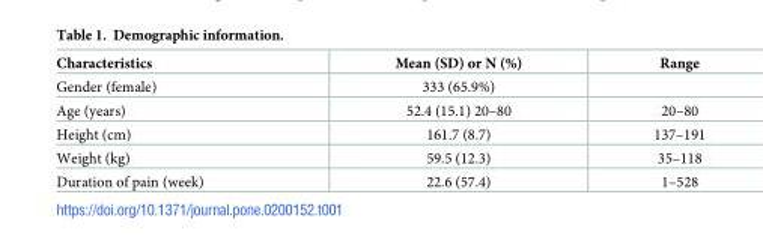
<table><thead><tr><td>Characteristics</td><td>Mean (SD) or N (%)</td><td>Range</td></tr></thead><tbody><tr><td>Gender (female)</td><td>333 (65.9%)</td><td></td></tr><tr><td>Age (years)</td><td>52.4 (15.1) 20–80</td><td>20–80</td></tr><tr><td>Height (cm)</td><td>161.7 (8.7)</td><td>137–191</td></tr><tr><td>Weight (kg)</td><td>59.5 (12.3)</td><td>35–118</td></tr><tr><td>Duration of pain (week)</td><td>22.6 (57.4)</td><td>1–528</td></tr></tbody></table>